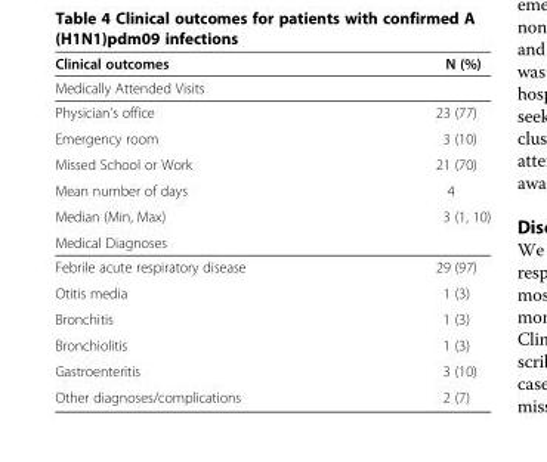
<table><thead><tr><td>Clinical outcomes</td><td>N (%)</td></tr></thead><tbody><tr><td colspan="2">Medically Attended Visits</td></tr><tr><td>Physician&#x27;s office</td><td>23 (77)</td></tr><tr><td>Emergency room</td><td>3 (10)</td></tr><tr><td>Missed School or Work</td><td>21 (70)</td></tr><tr><td>Mean number of days</td><td>4</td></tr><tr><td>Median (Min, Max)</td><td>3 (1, 10)</td></tr><tr><td colspan="2">Medical Diagnoses</td></tr><tr><td>Febrile acute respiratory disease</td><td>29 (97)</td></tr><tr><td>Otitis media</td><td>1 (3)</td></tr><tr><td>Bronchitis</td><td>1 (3)</td></tr><tr><td>Bronchiolitis</td><td>1 (3)</td></tr><tr><td>Gastroenteritis</td><td>3 (10)</td></tr><tr><td>Other diagnoses/complications</td><td>2 (7)</td></tr></tbody></table>